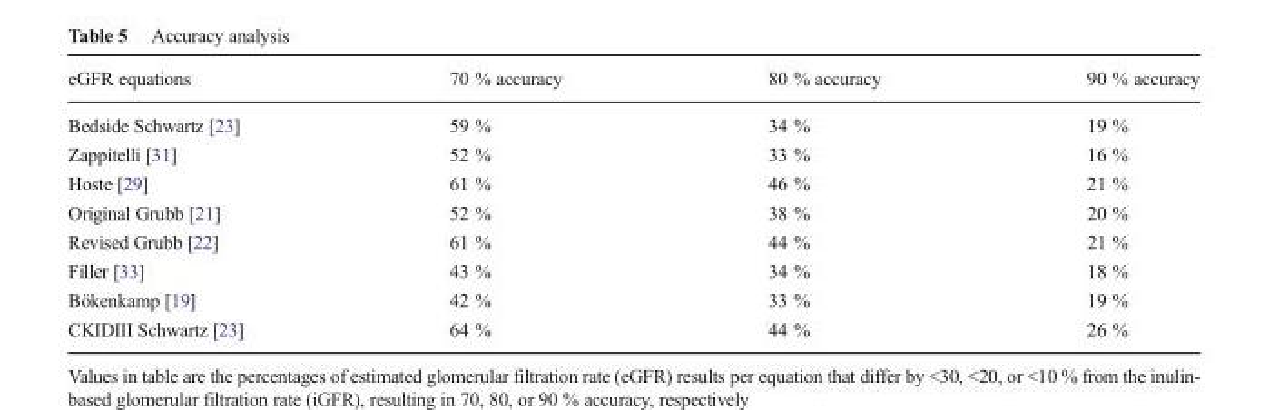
<table><thead><tr><td>eGFR equations</td><td>70 % accuracy</td><td>80 % accuracy</td><td>90 % accuracy</td></tr></thead><tbody><tr><td>Bedside Schwartz [23]</td><td>59 %</td><td>34 %</td><td>19 %</td></tr><tr><td>Zappitelli [31]</td><td>52 %</td><td>33 %</td><td>16 %</td></tr><tr><td>Hoste [29]</td><td>61 %</td><td>46 %</td><td>21 %</td></tr><tr><td>Original Grubb [21]</td><td>52 %</td><td>38 %</td><td>20 %</td></tr><tr><td>Revised Grubb [22]</td><td>61 %</td><td>44 %</td><td>21 %</td></tr><tr><td>Filler [33]</td><td>43 %</td><td>34 %</td><td>18 %</td></tr><tr><td>Bökenkamp [19]</td><td>42 %</td><td>33 %</td><td>19 %</td></tr><tr><td>CKIDIII Schwartz [23]</td><td>64 %</td><td>44 %</td><td>26 %</td></tr></tbody></table>